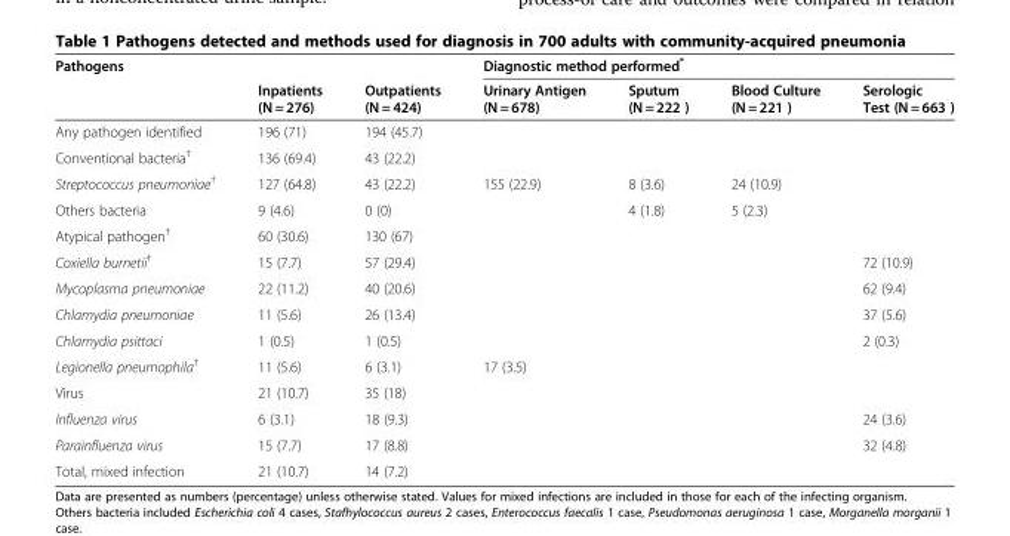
<table><thead><tr><td rowspan="2">Pathogens</td><td rowspan="2">Inpatients (N = 276)</td><td rowspan="2">Outpatients (N = 424)</td><td colspan="4">Diagnostic method performed*</td></tr><tr><td>Urinary Antigen (N = 678)</td><td>Sputum (N = 222 )</td><td>Blood Culture (N = 221 )</td><td>Serologic Test (N = 663 )</td></tr></thead><tbody><tr><td>Any pathogen identified</td><td>196 (71)</td><td>194 (45.7)</td><td></td><td></td><td></td><td></td></tr><tr><td>Conventional bacteria<sup>†</sup></td><td>136 (69.4)</td><td>43 (22.2)</td><td></td><td></td><td></td><td></td></tr><tr><td>Streptococcus pneumoniae<sup>†</sup></td><td>127 (64.8)</td><td>43 (22.2)</td><td>155 (22.9)</td><td>8 (3.6)</td><td>24 (10.9)</td><td></td></tr><tr><td>Others bacteria</td><td>9 (4.6)</td><td>0 (0)</td><td></td><td>4 (1.8)</td><td>5 (2.3)</td><td></td></tr><tr><td>Atypical pathogen<sup>†</sup></td><td>60 (30.6)</td><td>130 (67)</td><td></td><td></td><td></td><td></td></tr><tr><td>Coxiella burnetii<sup>†</sup></td><td>15 (7.7)</td><td>57 (29.4)</td><td></td><td></td><td></td><td>72 (10.9)</td></tr><tr><td>Mycoplasma pneumoniae</td><td>22 (11.2)</td><td>40 (20.6)</td><td></td><td></td><td></td><td>62 (9.4)</td></tr><tr><td>Chlamydia pneumoniae</td><td>11 (5.6)</td><td>26 (13.4)</td><td></td><td></td><td></td><td>37 (5.6)</td></tr><tr><td>Chlamydia psittaci</td><td>1 (0.5)</td><td>1 (0.5)</td><td></td><td></td><td></td><td>2 (0.3)</td></tr><tr><td>Legionella pneumophila<sup>†</sup></td><td>11 (5.6)</td><td>6 (3.1)</td><td>17 (3.5)</td><td></td><td></td><td></td></tr><tr><td>Virus</td><td>21 (10.7)</td><td>35 (18)</td><td></td><td></td><td></td><td></td></tr><tr><td>Influenza virus</td><td>6 (3.1)</td><td>18 (9.3)</td><td></td><td></td><td></td><td>24 (3.6)</td></tr><tr><td>Parainfluenza virus</td><td>15 (7.7)</td><td>17 (8.8)</td><td></td><td></td><td></td><td>32 (4.8)</td></tr><tr><td>Total, mixed infection</td><td>21 (10.7)</td><td>14 (7.2)</td><td></td><td></td><td></td><td></td></tr></tbody></table>